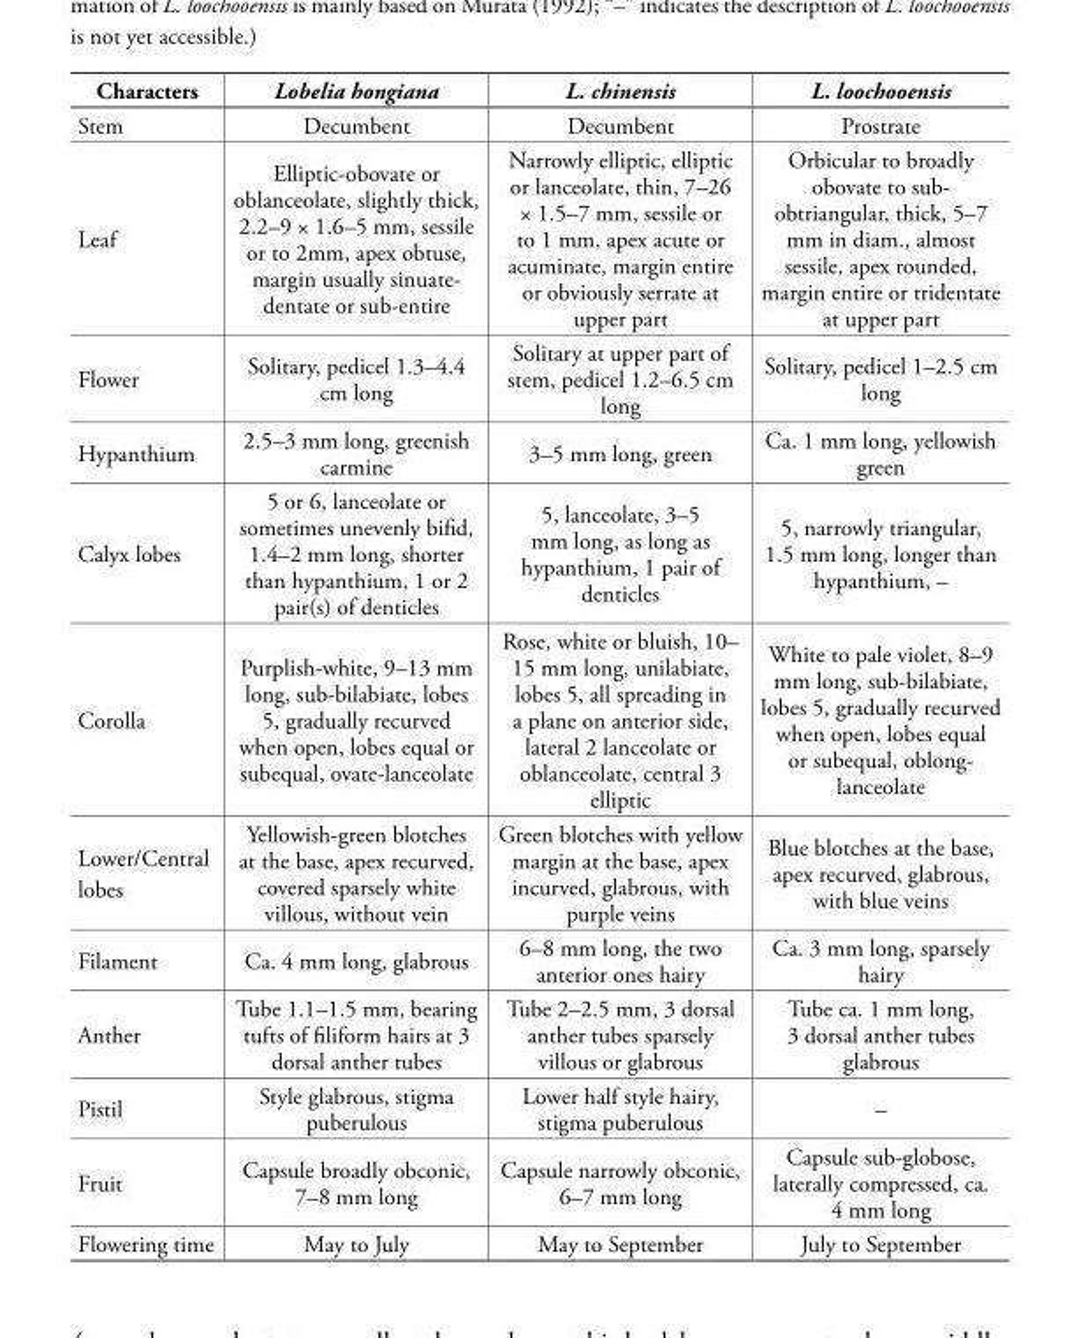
<table><thead><tr><td>Characters</td><td>Lobelia hongiana</td><td>L. chinensis</td><td>L. loochooensis</td></tr></thead><tbody><tr><td>Stem</td><td>Decumbent</td><td>Decumbent</td><td>Prostrate</td></tr><tr><td>Leaf</td><td>Elliptic-obovate or oblanceolate, slightly thick, 2.2–9 × 1.6–5 mm, sessile or to 2mm, apex obtuse, margin usually sinuate- dentate or sub-entire</td><td>Narrowly elliptic, elliptic or lanceolate, thin, 7–26 × 1.5–7 mm, sessile or to 1 mm, apex acute or acuminate, margin entire or obviously serrate at upper part</td><td>Orbicular to broadly obovate to sub- obtriangular, thick, 5–7 mm in diam., almost sessile, apex rounded, margin entire or tridentate at upper part</td></tr><tr><td>Flower</td><td>Solitary, pedicel 1.3–4.4 cm long</td><td>Solitary at upper part of stem, pedicel 1.2–6.5 cm long</td><td>Solitary, pedicel 1–2.5 cm long</td></tr><tr><td>Hypanthium</td><td>2.5–3 mm long, greenish carmine</td><td>3–5 mm long, green</td><td>Ca. 1 mm long, yellowish green</td></tr><tr><td>Calyx lobes</td><td>5 or 6, lanceolate or sometimes unevenly bifid, 1.4–2 mm long, shorter than hypanthium, 1 or 2 pair(s) of denticles</td><td>5, lanceolate, 3–5 mm long, as long as hypanthium, 1 pair of denticles</td><td>5, narrowly triangular, 1.5 mm long, longer than hypanthium, –</td></tr><tr><td>Corolla</td><td>Purplish-white, 9–13 mm long, sub-bilabiate, lobes 5, gradually recurved when open, lobes equal or subequal, ovate-lanceolate</td><td>Rose, white or bluish, 10– 15 mm long, unilabiate, lobes 5, all spreading in a plane on anterior side, lateral 2 lanceolate or oblanceolate, central 3 elliptic</td><td>White to pale violet, 8–9 mm long, sub-bilabiate, lobes 5, gradually recurved when open, lobes equal or subequal, oblong- lanceolate</td></tr><tr><td>Lower/Central lobes</td><td>Yellowish-green blotches at the base, apex recurved, covered sparsely white villous, without vein</td><td>Green blotches with yellow margin at the base, apex incurved, glabrous, with purple veins</td><td>Blue blotches at the base, apex recurved, glabrous, with blue veins</td></tr><tr><td>Filament</td><td>Ca. 4 mm long, glabrous</td><td>6–8 mm long, the two anterior ones hairy</td><td>Ca. 3 mm long, sparsely hairy</td></tr><tr><td>Anther</td><td>Tube 1.1–1.5 mm, bearing tufts of filiform hairs at 3 dorsal anther tubes</td><td>Tube 2–2.5 mm, 3 dorsal anther tubes sparsely villous or glabrous</td><td>Tube ca. 1 mm long, 3 dorsal anther tubes glabrous</td></tr><tr><td>Pistil</td><td>Style glabrous, stigma puberulous</td><td>Lower half style hairy, stigma puberulous</td><td>–</td></tr><tr><td>Fruit</td><td>Capsule broadly obconic, 7–8 mm long</td><td>Capsule narrowly obconic, 6–7 mm long</td><td>Capsule sub-globose, laterally compressed, ca. 4 mm long</td></tr><tr><td>Flowering time</td><td>May to July</td><td>May to September</td><td>July to September</td></tr></tbody></table>